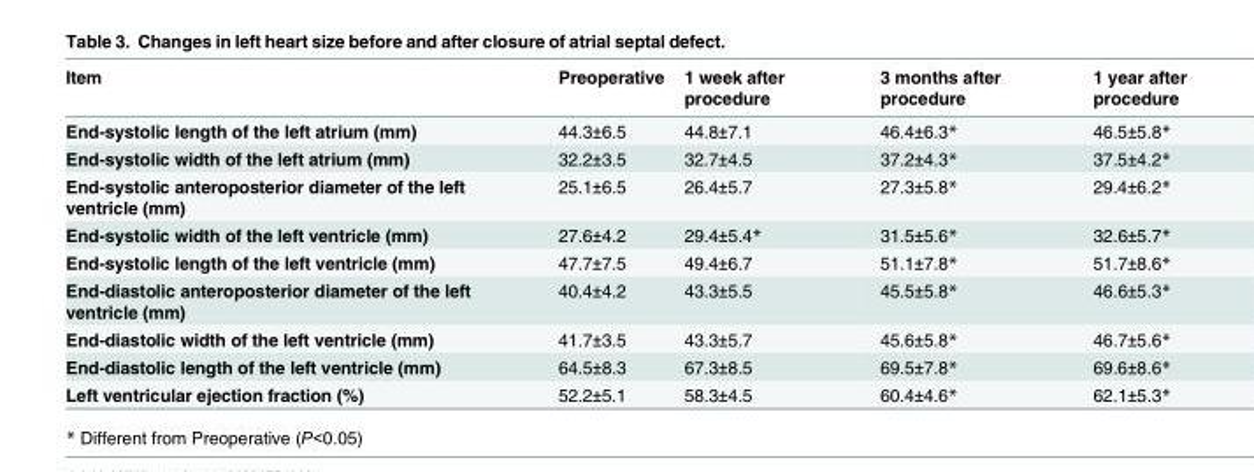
<table><thead><tr><td>Item</td><td>Preoperative</td><td>1 week after procedure</td><td>3 months after procedure</td><td>1 year after procedure</td></tr></thead><tbody><tr><td>End-systolic length of the left atrium (mm)</td><td>44.3±6.5</td><td>44.8±7.1</td><td>46.4±6.3*</td><td>46.5±5.8*</td></tr><tr><td>End-systolic width of the left atrium (mm)</td><td>32.2±3.5</td><td>32.7±4.5</td><td>37.2±4.3*</td><td>37.5±4.2*</td></tr><tr><td>End-systolic anteroposterior diameter of the left ventricle (mm)</td><td>25.1±6.5</td><td>26.4±5.7</td><td>27.3±5.8*</td><td>29.4±6.2*</td></tr><tr><td>End-systolic width of the left ventricle (mm)</td><td>27.6±4.2</td><td>29.4±5.4*</td><td>31.5±5.6*</td><td>32.6±5.7*</td></tr><tr><td>End-systolic length of the left ventricle (mm)</td><td>47.7±7.5</td><td>49.4±6.7</td><td>51.1±7.8*</td><td>51.7±8.6*</td></tr><tr><td>End-diastolic anteroposterior diameter of the left ventricle (mm)</td><td>40.4±4.2</td><td>43.3±5.5</td><td>45.5±5.8*</td><td>46.6±5.3*</td></tr><tr><td>End-diastolic width of the left ventricle (mm)</td><td>41.7±3.5</td><td>43.3±5.7</td><td>45.6±5.8*</td><td>46.7±5.6*</td></tr><tr><td>End-diastolic length of the left ventricle (mm)</td><td>64.5±8.3</td><td>67.3±8.5</td><td>69.5±7.8*</td><td>69.6±8.6*</td></tr><tr><td>Left ventricular ejection fraction (%)</td><td>52.2±5.1</td><td>58.3±4.5</td><td>60.4±4.6*</td><td>62.1±5.3*</td></tr></tbody></table>